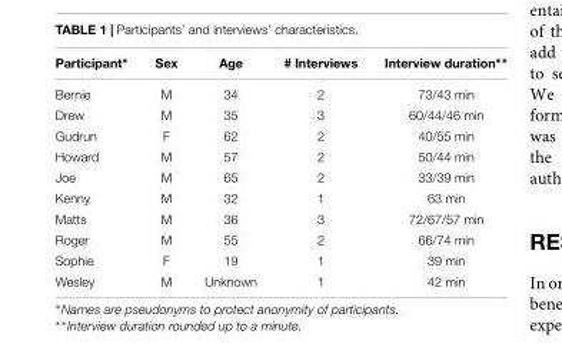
<table><thead><tr><td>Participant∗</td><td>Sex</td><td>Age</td><td># Interviews</td><td>Interview duration∗∗</td></tr></thead><tbody><tr><td>Bernie</td><td>M</td><td>34</td><td>2</td><td>73/43 min</td></tr><tr><td>Drew</td><td>M</td><td>35</td><td>3</td><td>60/44/46 min</td></tr><tr><td>Gudrun</td><td>F</td><td>62</td><td>2</td><td>40/55 min</td></tr><tr><td>Howard</td><td>M</td><td>57</td><td>2</td><td>50/44 min</td></tr><tr><td>Joe</td><td>M</td><td>65</td><td>2</td><td>33/39 min</td></tr><tr><td>Kenny</td><td>M</td><td>32</td><td>1</td><td>63 min</td></tr><tr><td>Matts</td><td>M</td><td>36</td><td>3</td><td>72/67/57 min</td></tr><tr><td>Roger</td><td>M</td><td>55</td><td>2</td><td>66/74 min</td></tr><tr><td>Sophie</td><td>F</td><td>19</td><td>1</td><td>39 min</td></tr><tr><td>Wesley</td><td>M</td><td>Unknown</td><td>1</td><td>42 min</td></tr></tbody></table>